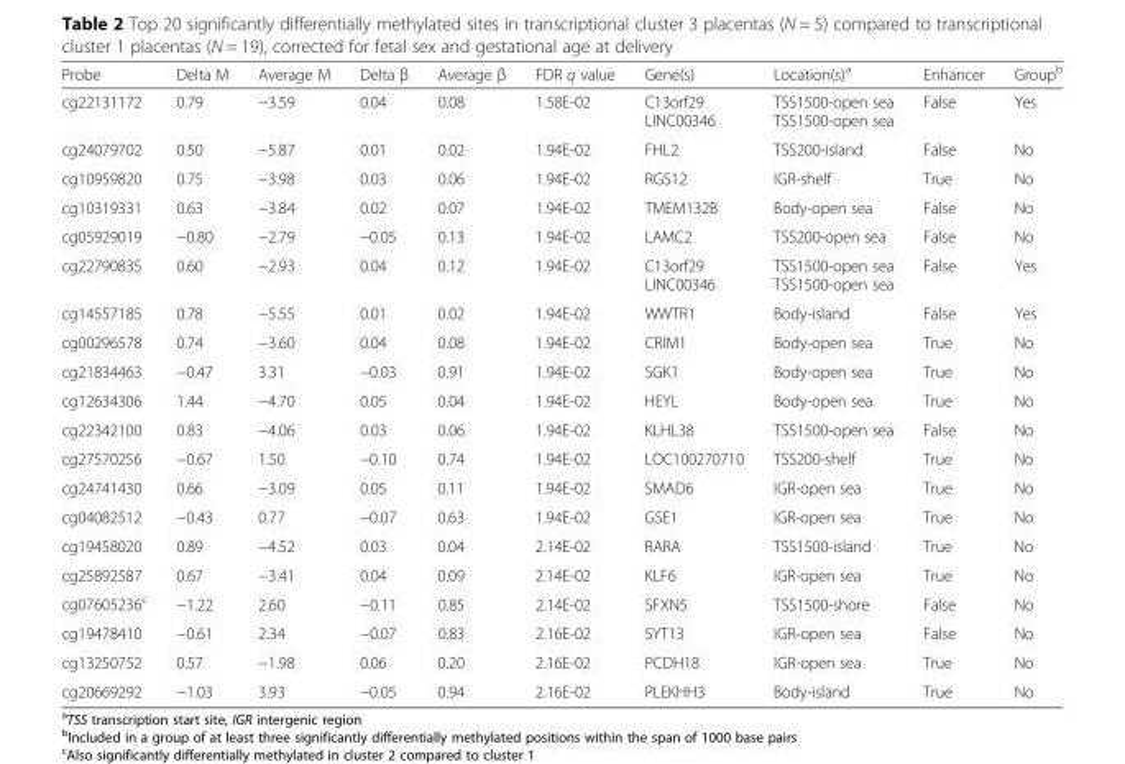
<table><thead><tr><td>Probe</td><td>Delta M</td><td>Average M</td><td>Delta β</td><td>Average β</td><td>FDR q value</td><td>Gene(s)</td><td>Location(s)<sup>a</sup></td><td>Enhancer</td><td>Group<sup>b</sup></td></tr></thead><tbody><tr><td>cg22131172</td><td>0.79</td><td>−3.59</td><td>0.04</td><td>0.08</td><td>1.58E-02</td><td>C13orf29 LINC00346</td><td>TSS1500-open sea TSS1500-open sea</td><td>False</td><td>Yes</td></tr><tr><td>cg24079702</td><td>0.50</td><td>−5.87</td><td>0.01</td><td>0.02</td><td>1.94E-02</td><td>FHL2</td><td>TSS200-island</td><td>False</td><td>No</td></tr><tr><td>cg10959820</td><td>0.75</td><td>−3.98</td><td>0.03</td><td>0.06</td><td>1.94E-02</td><td>RGS12</td><td>IGR-shelf</td><td>True</td><td>No</td></tr><tr><td>cg10319331</td><td>0.63</td><td>−3.84</td><td>0.02</td><td>0.07</td><td>1.94E-02</td><td>TMEM132B</td><td>Body-open sea</td><td>False</td><td>No</td></tr><tr><td>cg05929019</td><td>−0.80</td><td>−2.79</td><td>−0.05</td><td>0.13</td><td>1.94E-02</td><td>LAMC2</td><td>TSS200-open sea</td><td>False</td><td>No</td></tr><tr><td>cg22790835</td><td>0.60</td><td>−2.93</td><td>0.04</td><td>0.12</td><td>1.94E-02</td><td>C13orf29 LINC00346</td><td>TSS1500-open sea TSS1500-open sea</td><td>False</td><td>Yes</td></tr><tr><td>cg14557185</td><td>0.78</td><td>−5.55</td><td>0.01</td><td>0.02</td><td>1.94E-02</td><td>WWTR1</td><td>Body-island</td><td>False</td><td>Yes</td></tr><tr><td>cg00296578</td><td>0.74</td><td>−3.60</td><td>0.04</td><td>0.08</td><td>1.94E-02</td><td>CRIM1</td><td>Body-open sea</td><td>True</td><td>No</td></tr><tr><td>cg21834463</td><td>−0.47</td><td>3.31</td><td>−0.03</td><td>0.91</td><td>1.94E-02</td><td>SGK1</td><td>Body-open sea</td><td>True</td><td>No</td></tr><tr><td>cg12634306</td><td>1.44</td><td>−4.70</td><td>0.05</td><td>0.04</td><td>1.94E-02</td><td>HEYL</td><td>Body-open sea</td><td>True</td><td>No</td></tr><tr><td>cg22342100</td><td>0.83</td><td>−4.06</td><td>0.03</td><td>0.06</td><td>1.94E-02</td><td>KLHL38</td><td>TSS1500-open sea</td><td>False</td><td>No</td></tr><tr><td>cg27570256</td><td>−0.67</td><td>1.50</td><td>−0.10</td><td>0.74</td><td>1.94E-02</td><td>LOC100270710</td><td>TSS200-shelf</td><td>True</td><td>No</td></tr><tr><td>cg24741430</td><td>0.66</td><td>−3.09</td><td>0.05</td><td>0.11</td><td>1.94E-02</td><td>SMAD6</td><td>IGR-open sea</td><td>True</td><td>No</td></tr><tr><td>cg04082512</td><td>−0.43</td><td>0.77</td><td>−0.07</td><td>0.63</td><td>1.94E-02</td><td>GSE1</td><td>IGR-open sea</td><td>True</td><td>No</td></tr><tr><td>cg19458020</td><td>0.89</td><td>−4.52</td><td>0.03</td><td>0.04</td><td>2.14E-02</td><td>RARA</td><td>TSS1500-island</td><td>True</td><td>No</td></tr><tr><td>cg25892587</td><td>0.67</td><td>−3.41</td><td>0.04</td><td>0.09</td><td>2.14E-02</td><td>KLF6</td><td>IGR-open sea</td><td>True</td><td>No</td></tr><tr><td>cg07605236<sup>c</sup></td><td>−1.22</td><td>2.60</td><td>−0.11</td><td>0.85</td><td>2.14E-02</td><td>SFXN5</td><td>TSS1500-shore</td><td>False</td><td>No</td></tr><tr><td>cg19478410</td><td>−0.61</td><td>2.34</td><td>−0.07</td><td>0.83</td><td>2.16E-02</td><td>SYT13</td><td>IGR-open sea</td><td>False</td><td>No</td></tr><tr><td>cg13250752</td><td>0.57</td><td>−1.98</td><td>0.06</td><td>0.20</td><td>2.16E-02</td><td>PCDH18</td><td>IGR-open sea</td><td>True</td><td>No</td></tr><tr><td>cg20669292</td><td>−1.03</td><td>3.93</td><td>−0.05</td><td>0.94</td><td>2.16E-02</td><td>PLEKHH3</td><td>Body-island</td><td>True</td><td>No</td></tr></tbody></table>